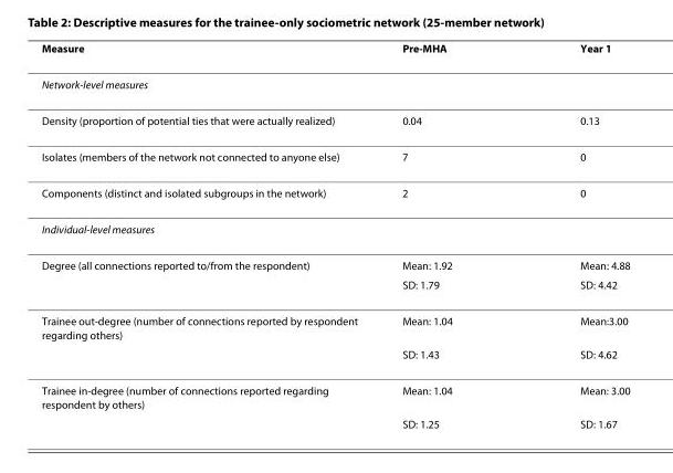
<table><thead><tr><td>Measure</td><td>Pre-MHA</td><td>Year 1</td></tr></thead><tbody><tr><td colspan="3">Network-level measures</td></tr><tr><td>Density (proportion of potential ties that were actually realized)</td><td>0.04</td><td>0.13</td></tr><tr><td>Isolates (members of the network not connected to anyone else)</td><td>7</td><td>0</td></tr><tr><td>Components (distinct and isolated subgroups in the network)</td><td>2</td><td>0</td></tr><tr><td colspan="3">Individual-level measures</td></tr><tr><td rowspan="2">Degree (all connections reported to/from the respondent)</td><td>Mean: 1.92</td><td>Mean: 4.88</td></tr><tr><td>SD: 1.79</td><td>SD: 4.42</td></tr><tr><td rowspan="2">Trainee out-degree (number of connections reported by respondent regarding others)</td><td>Mean: 1.04</td><td>Mean:3.00</td></tr><tr><td>SD: 1.43</td><td>SD: 4.62</td></tr><tr><td rowspan="2">Trainee in-degree (number of connections reported regarding respondent by others)</td><td>Mean: 1.04</td><td>Mean: 3.00</td></tr><tr><td>SD: 1.25</td><td>SD: 1.67</td></tr></tbody></table>